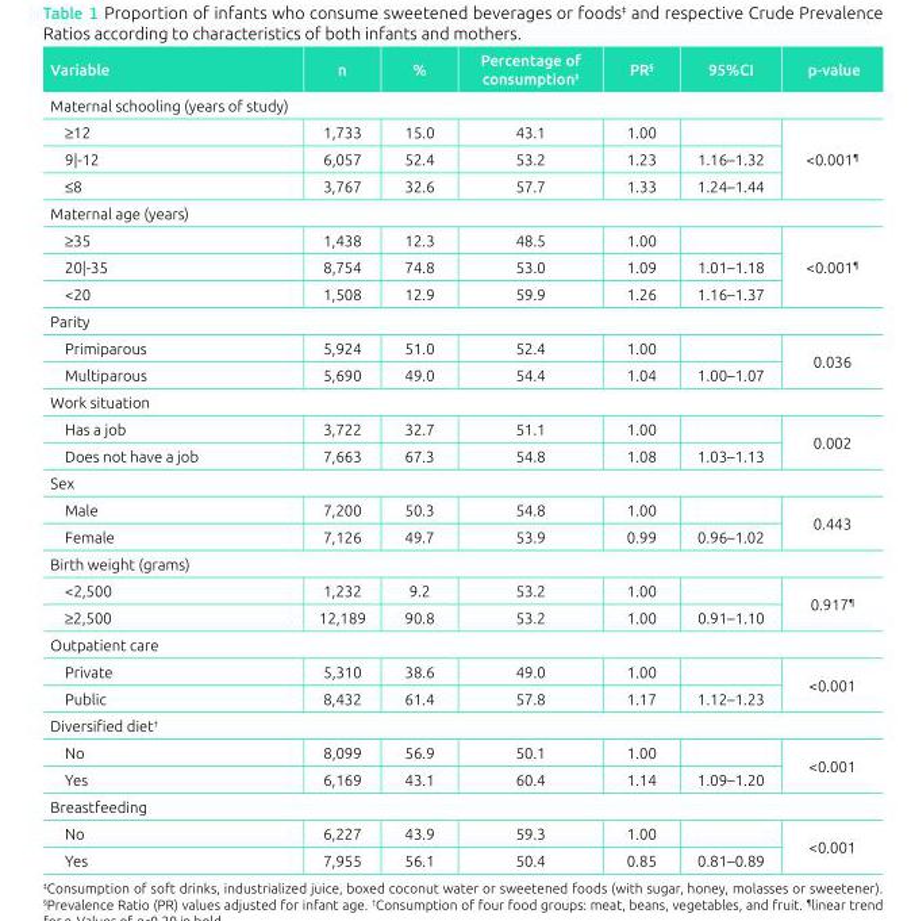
<table><thead><tr><td>Variable</td><td>n</td><td>%</td><td>Percentage of consumption<sup>‡</sup></td><td>PR<sup>§</sup></td><td>95%CI</td><td>p-value</td></tr></thead><tbody><tr><td colspan="7">Maternal schooling (years of study)</td></tr><tr><td>≥12</td><td>1,733</td><td>15.0</td><td>43.1</td><td>1.00</td><td></td><td rowspan="3">&lt;0.001<sup>¶</sup></td></tr><tr><td>9|-12</td><td>6,057</td><td>52.4</td><td>53.2</td><td>1.23</td><td>1.16–1.32</td></tr><tr><td>≤8</td><td>3,767</td><td>32.6</td><td>57.7</td><td>1.33</td><td>1.24–1.44</td></tr><tr><td colspan="7">Maternal age (years)</td></tr><tr><td>≥35</td><td>1,438</td><td>12.3</td><td>48.5</td><td>1.00</td><td></td><td rowspan="3">&lt;0.001<sup>¶</sup></td></tr><tr><td>20|-35</td><td>8,754</td><td>74.8</td><td>53.0</td><td>1.09</td><td>1.01–1.18</td></tr><tr><td>&lt;20</td><td>1,508</td><td>12.9</td><td>59.9</td><td>1.26</td><td>1.16–1.37</td></tr><tr><td colspan="7">Parity</td></tr><tr><td>Primiparous</td><td>5,924</td><td>51.0</td><td>52.4</td><td>1.00</td><td></td><td rowspan="2">0.036</td></tr><tr><td>Multiparous</td><td>5,690</td><td>49.0</td><td>54.4</td><td>1.04</td><td>1.00–1.07</td></tr><tr><td colspan="7">Work situation</td></tr><tr><td>Has a job</td><td>3,722</td><td>32.7</td><td>51.1</td><td>1.00</td><td></td><td rowspan="2">0.002</td></tr><tr><td>Does not have a job</td><td>7,663</td><td>67.3</td><td>54.8</td><td>1.08</td><td>1.03–1.13</td></tr><tr><td colspan="7">Sex</td></tr><tr><td>Male</td><td>7,200</td><td>50.3</td><td>54.8</td><td>1.00</td><td></td><td rowspan="2">0.443</td></tr><tr><td>Female</td><td>7,126</td><td>49.7</td><td>53.9</td><td>0.99</td><td>0.96–1.02</td></tr><tr><td colspan="7">Birth weight (grams)</td></tr><tr><td>&lt;2,500</td><td>1,232</td><td>9.2</td><td>53.2</td><td>1.00</td><td></td><td rowspan="2">0.917<sup>¶</sup></td></tr><tr><td>≥2,500</td><td>12,189</td><td>90.8</td><td>53.2</td><td>1.00</td><td>0.91–1.10</td></tr><tr><td colspan="7">Outpatient care</td></tr><tr><td>Private</td><td>5,310</td><td>38.6</td><td>49.0</td><td>1.00</td><td></td><td rowspan="2">&lt;0.001</td></tr><tr><td>Public</td><td>8,432</td><td>61.4</td><td>57.8</td><td>1.17</td><td>1.12–1.23</td></tr><tr><td colspan="7">Diversified diet<sup>†</sup></td></tr><tr><td>No</td><td>8,099</td><td>56.9</td><td>50.1</td><td>1.00</td><td></td><td rowspan="2">&lt;0.001</td></tr><tr><td>Yes</td><td>6,169</td><td>43.1</td><td>60.4</td><td>1.14</td><td>1.09–1.20</td></tr><tr><td colspan="7">Breastfeeding</td></tr><tr><td>No</td><td>6,227</td><td>43.9</td><td>59.3</td><td>1.00</td><td></td><td rowspan="2">&lt;0.001</td></tr><tr><td>Yes</td><td>7,955</td><td>56.1</td><td>50.4</td><td>0.85</td><td>0.81–0.89</td></tr></tbody></table>